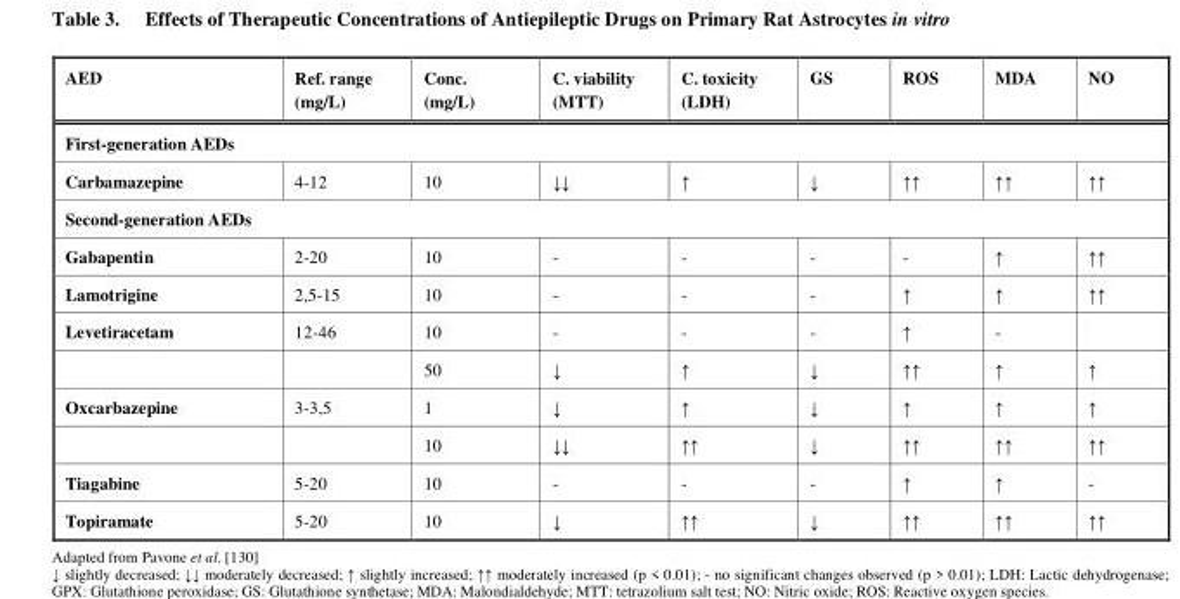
<table><thead><tr><td>AED</td><td>Ref. range (mg/L)</td><td>Conc. (mg/L)</td><td>C. viability (MTT)</td><td>C. toxicity (LDH)</td><td>GS</td><td>ROS</td><td>MDA</td><td>NO</td></tr></thead><tbody><tr><td colspan="9">First-generation AEDs</td></tr><tr><td>Carbamazepine</td><td>4-12</td><td>10</td><td>↓↓</td><td>↑</td><td>↓</td><td>↑↑</td><td>↑↑</td><td>↑↑</td></tr><tr><td colspan="9">Second-generation AEDs</td></tr><tr><td>Gabapentin</td><td>2-20</td><td>10</td><td>-</td><td>-</td><td>-</td><td>-</td><td>↑</td><td>↑↑</td></tr><tr><td>Lamotrigine</td><td>2,5-15</td><td>10</td><td>-</td><td>-</td><td>-</td><td>↑</td><td>↑</td><td>↑↑</td></tr><tr><td rowspan="2">Levetiracetam</td><td>12-46</td><td>10</td><td>-</td><td>-</td><td>-</td><td>↑</td><td>-</td><td></td></tr><tr><td></td><td>50</td><td>↓</td><td>↑</td><td>↓</td><td>↑↑</td><td>↑</td><td>↑</td></tr><tr><td rowspan="2">Oxcarbazepine</td><td>3-3,5</td><td>1</td><td>↓</td><td>↑</td><td>↓</td><td>↑</td><td>↑</td><td>↑</td></tr><tr><td></td><td>10</td><td>↓↓</td><td>↑↑</td><td>↓</td><td>↑↑</td><td>↑↑</td><td>↑↑</td></tr><tr><td>Tiagabine</td><td>5-20</td><td>10</td><td>-</td><td>-</td><td>-</td><td>↑</td><td>↑</td><td>-</td></tr><tr><td>Topiramate</td><td>5-20</td><td>10</td><td>↓</td><td>↑↑</td><td>↓</td><td>↑↑</td><td>↑↑</td><td>↑↑</td></tr></tbody></table>